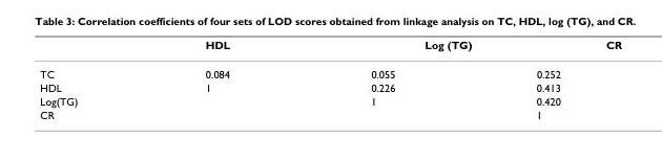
<table><thead><tr><td></td><td>HDL</td><td>Log (TG)</td><td>CR</td></tr></thead><tbody><tr><td>TC</td><td>0.084</td><td>0.055</td><td>0.252</td></tr><tr><td>HDL</td><td>1</td><td>0.226</td><td>0.413</td></tr><tr><td>Log(TG)</td><td></td><td>1</td><td>0.420</td></tr><tr><td>CR</td><td></td><td></td><td>1</td></tr></tbody></table>